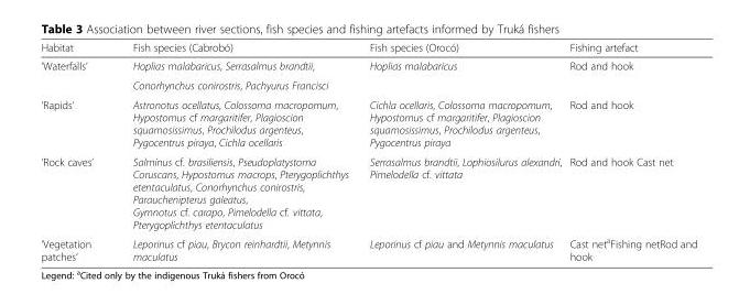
<table><thead><tr><td>Habitat</td><td>Fish species (Cabrobó)</td><td>Fish species (Orocó)</td><td>Fishing artefact</td></tr></thead><tbody><tr><td rowspan="2">‘Waterfalls’</td><td>Hoplias malabaricus, Serrasalmus brandtii,</td><td>Hoplias malabaricus</td><td>Rod and hook</td></tr><tr><td>Conorhynchus conirostris, Pachyurus Francisci</td><td></td><td></td></tr><tr><td>‘Rapids’</td><td>Astronotus ocellatus, Colossoma macropomum, Hypostomus cf margaritifer, Plagioscion squamosissimus, Prochilodus argenteus, Pygocentrus piraya, Cichla ocellaris</td><td>Cichla ocellaris, Colossoma macropomum, Hypostomus cf margaritifer, Plagioscion squamosissimus, Prochilodus argenteus, Pygocentrus piraya</td><td>Rod and hook</td></tr><tr><td>‘Rock caves’</td><td>Salminus cf. brasiliensis, Pseudoplatystoma Coruscans, Hypostomus macrops, Pterygoplichthys etentaculatus, Conorhynchus conirostris, Parauchenipterus galeatus, Gymnotus cf. carapo, Pimelodella cf. vittata, Pterygoplichthys etentaculatus</td><td>Serrasalmus brandtii, Lophiosilurus alexandri, Pimelodella cf. vittata</td><td>Rod and hook Cast net</td></tr><tr><td>‘Vegetation patches’</td><td>Leporinus cf piau, Brycon reinhardtii, Metynnis maculatus</td><td>Leporinus cf piau and Metynnis maculatus</td><td>Cast net<sup>a</sup>Fishing netRod and hook</td></tr></tbody></table>